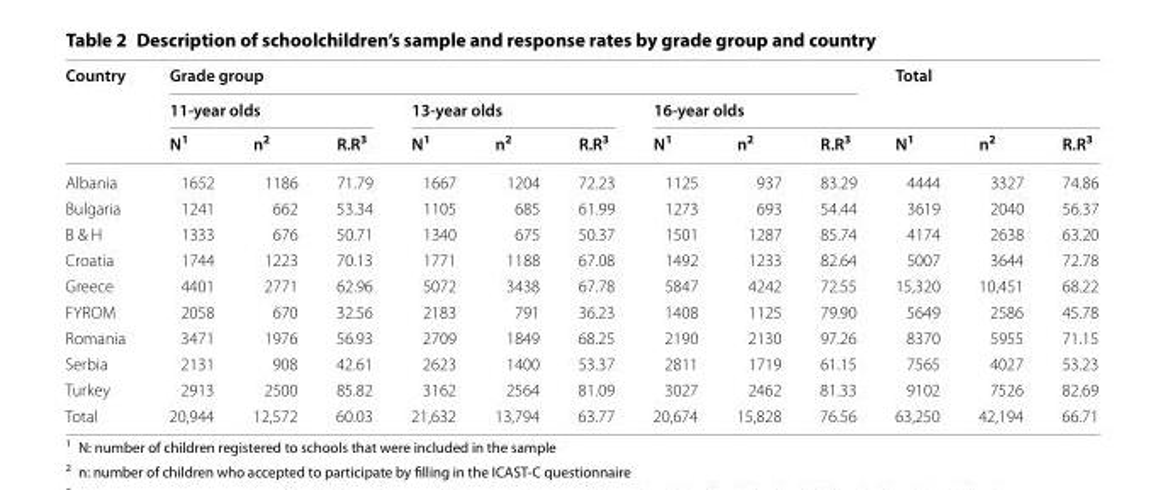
<table><thead><tr><td rowspan="3">Country</td><td colspan="9">Grade group</td><td rowspan="2" colspan="3">Total</td></tr><tr><td colspan="3">11-year olds</td><td colspan="3">13-year olds</td><td colspan="3">16-year olds</td></tr><tr><td>N<sup>1</sup></td><td>n<sup>2</sup></td><td>R.R<sup>3</sup></td><td>N<sup>1</sup></td><td>n<sup>2</sup></td><td>R.R<sup>3</sup></td><td>N<sup>1</sup></td><td>n<sup>2</sup></td><td>R.R<sup>3</sup></td><td>N<sup>1</sup></td><td>n<sup>2</sup></td><td>R.R<sup>3</sup></td></tr></thead><tbody><tr><td>Albania</td><td>1652</td><td>1186</td><td>71.79</td><td>1667</td><td>1204</td><td>72.23</td><td>1125</td><td>937</td><td>83.29</td><td>4444</td><td>3327</td><td>74.86</td></tr><tr><td>Bulgaria</td><td>1241</td><td>662</td><td>53.34</td><td>1105</td><td>685</td><td>61.99</td><td>1273</td><td>693</td><td>54.44</td><td>3619</td><td>2040</td><td>56.37</td></tr><tr><td>B &amp; H</td><td>1333</td><td>676</td><td>50.71</td><td>1340</td><td>675</td><td>50.37</td><td>1501</td><td>1287</td><td>85.74</td><td>4174</td><td>2638</td><td>63.20</td></tr><tr><td>Croatia</td><td>1744</td><td>1223</td><td>70.13</td><td>1771</td><td>1188</td><td>67.08</td><td>1492</td><td>1233</td><td>82.64</td><td>5007</td><td>3644</td><td>72.78</td></tr><tr><td>Greece</td><td>4401</td><td>2771</td><td>62.96</td><td>5072</td><td>3438</td><td>67.78</td><td>5847</td><td>4242</td><td>72.55</td><td>15,320</td><td>10,451</td><td>68.22</td></tr><tr><td>FYROM</td><td>2058</td><td>670</td><td>32.56</td><td>2183</td><td>791</td><td>36.23</td><td>1408</td><td>1125</td><td>79.90</td><td>5649</td><td>2586</td><td>45.78</td></tr><tr><td>Romania</td><td>3471</td><td>1976</td><td>56.93</td><td>2709</td><td>1849</td><td>68.25</td><td>2190</td><td>2130</td><td>97.26</td><td>8370</td><td>5955</td><td>71.15</td></tr><tr><td>Serbia</td><td>2131</td><td>908</td><td>42.61</td><td>2623</td><td>1400</td><td>53.37</td><td>2811</td><td>1719</td><td>61.15</td><td>7565</td><td>4027</td><td>53.23</td></tr><tr><td>Turkey</td><td>2913</td><td>2500</td><td>85.82</td><td>3162</td><td>2564</td><td>81.09</td><td>3027</td><td>2462</td><td>81.33</td><td>9102</td><td>7526</td><td>82.69</td></tr><tr><td>Total</td><td>20,944</td><td>12,572</td><td>60.03</td><td>21,632</td><td>13,794</td><td>63.77</td><td>20,674</td><td>15,828</td><td>76.56</td><td>63,250</td><td>42,194</td><td>66.71</td></tr></tbody></table>